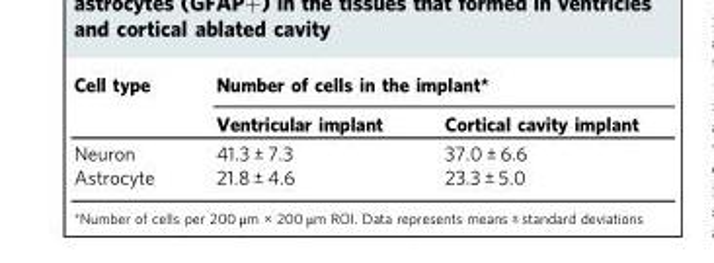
<table><thead><tr><td rowspan="2">Cell type</td><td colspan="2">Number of cells in the implant*</td></tr><tr><td>Ventricular implant</td><td>Cortical cavity implant</td></tr></thead><tbody><tr><td>Neuron</td><td>41.3 ± 7.3</td><td>37.0 ± 6.6</td></tr><tr><td>Astrocyte</td><td>21.8 ± 4.6</td><td>23.3 ± 5.0</td></tr></tbody></table>